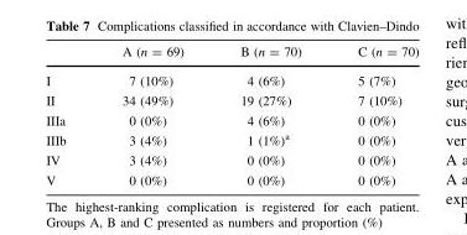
<table><thead><tr><td></td><td>A (n = 69)</td><td>B (n = 70)</td><td>C (n = 70)</td></tr></thead><tbody><tr><td>I</td><td>7 (10%)</td><td>4 (6%)</td><td>5 (7%)</td></tr><tr><td>II</td><td>34 (49%)</td><td>19 (27%)</td><td>7 (10%)</td></tr><tr><td>IIIa</td><td>0 (0%)</td><td>4 (6%)</td><td>0 (0%)</td></tr><tr><td>IIIb</td><td>3 (4%)</td><td>1 (1%)<sup>a</sup></td><td>0 (0%)</td></tr><tr><td>IV</td><td>3 (4%)</td><td>0 (0%)</td><td>0 (0%)</td></tr><tr><td>V</td><td>0 (0%)</td><td>0 (0%)</td><td>0 (0%)</td></tr></tbody></table>